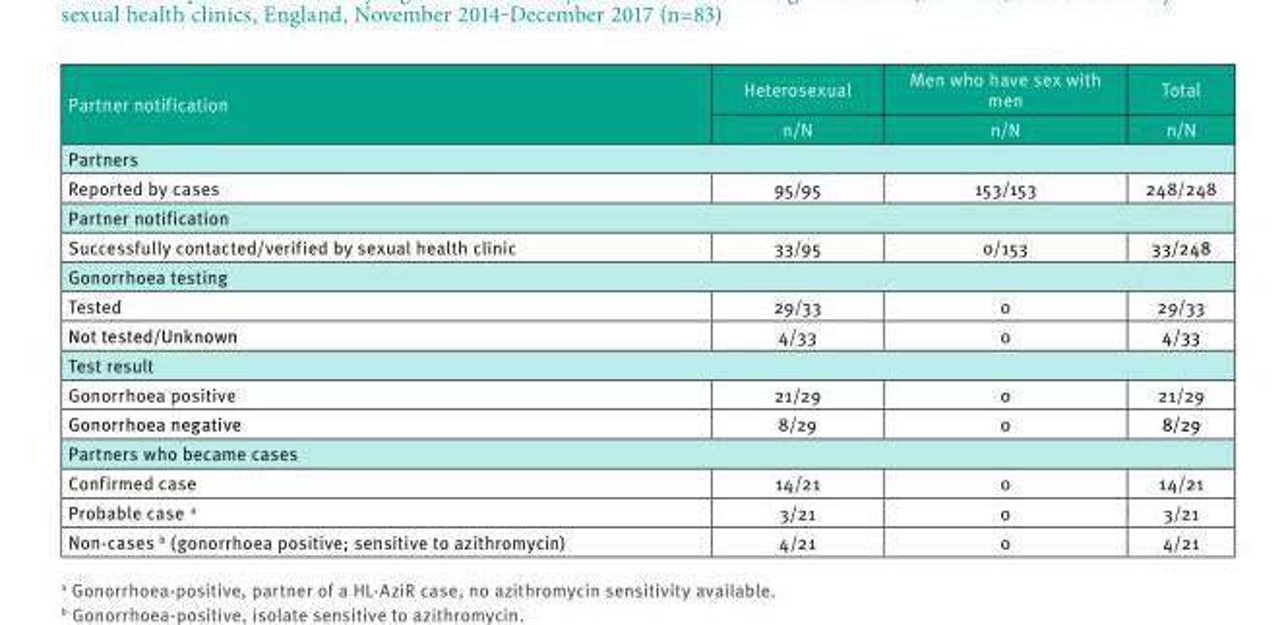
<table><thead><tr><td rowspan="2">Partner notification</td><td rowspan="2">Heterosexual n/N</td><td rowspan="2">Men who have sex with men n/N</td><td rowspan="2">Total n/N</td></tr><tr></tr></thead><tbody><tr><td colspan="4">Partners</td></tr><tr><td>Reported by cases</td><td>95/95</td><td>153/153</td><td>248/248</td></tr><tr><td colspan="4">Partner notification</td></tr><tr><td>Successfully contacted/verified by sexual health clinic</td><td>33/95</td><td>0/153</td><td>33/248</td></tr><tr><td colspan="4">Gonorrhoea testing</td></tr><tr><td>Tested</td><td>29/33</td><td>0</td><td>29/33</td></tr><tr><td>Not tested/Unknown</td><td>4/33</td><td>0</td><td>4/33</td></tr><tr><td colspan="4">Test result</td></tr><tr><td>Gonorrhoea positive</td><td>21/29</td><td>0</td><td>21/29</td></tr><tr><td>Gonorrhoea negative</td><td>8/29</td><td>0</td><td>8/29</td></tr><tr><td colspan="4">Partners who became cases</td></tr><tr><td>Confirmed case</td><td>14/21</td><td>0</td><td>14/21</td></tr><tr><td>Probable case a</td><td>3/21</td><td>0</td><td>3/21</td></tr><tr><td>Non-cases b (gonorrhoea positive; sensitive to azithromycin)</td><td>4/21</td><td>0</td><td>4/21</td></tr></tbody></table>